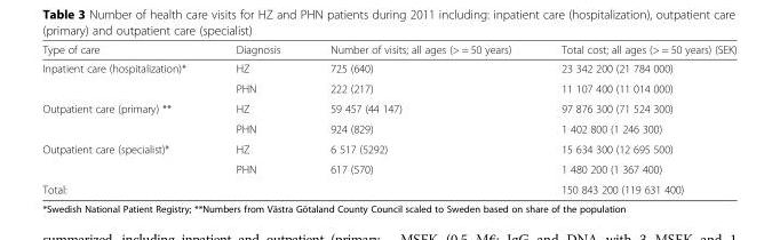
<table><thead><tr><td>Type of care</td><td>Diagnosis</td><td>Number of visits; all ages (&gt; = 50 years)</td><td>Total cost; all ages (&gt; = 50 years) (SEK)</td></tr></thead><tbody><tr><td rowspan="2">Inpatient care (hospitalization)*</td><td>HZ</td><td>725 (640)</td><td>23 342 200 (21 784 000)</td></tr><tr><td>PHN</td><td>222 (217)</td><td>11 107 400 (11 014 000)</td></tr><tr><td rowspan="2">Outpatient care (primary) **</td><td>HZ</td><td>59 457 (44 147)</td><td>97 876 300 (71 524 300)</td></tr><tr><td>PHN</td><td>924 (829)</td><td>1 402 800 (1 246 300)</td></tr><tr><td rowspan="2">Outpatient care (specialist)*</td><td>HZ</td><td>6 517 (5292)</td><td>15 634 300 (12 695 500)</td></tr><tr><td>PHN</td><td>617 (570)</td><td>1 480 200 (1 367 400)</td></tr><tr><td>Total:</td><td></td><td></td><td>150 843 200 (119 631 400)</td></tr></tbody></table>